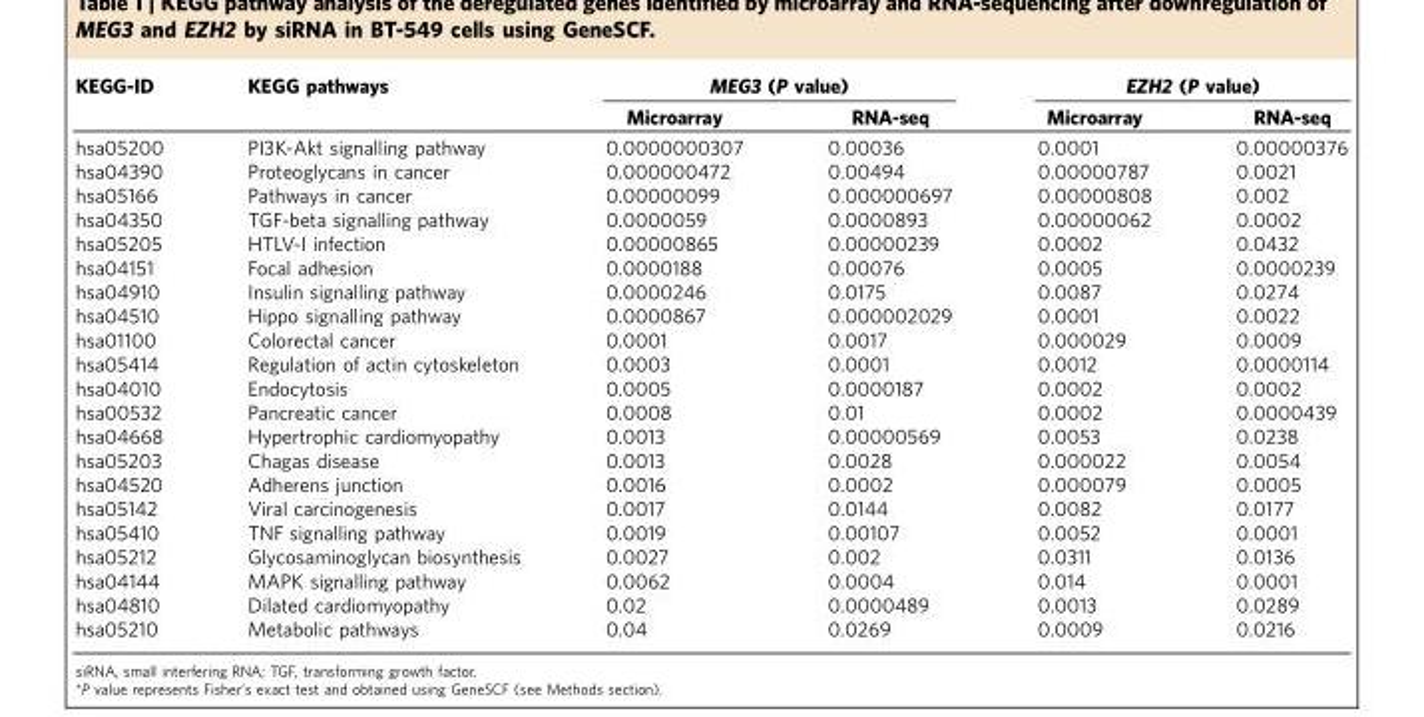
<table><thead><tr><td rowspan="2">KEGG-ID</td><td rowspan="2">KEGG pathways</td><td colspan="2">MEG3 (P value)</td><td colspan="2">EZH2 (P value)</td></tr><tr><td>Microarray</td><td>RNA-seq</td><td>Microarray</td><td>RNA-seq</td></tr></thead><tbody><tr><td>hsa05200</td><td>PI3K-Akt signalling pathway</td><td>0.0000000307</td><td>0.00036</td><td>0.0001</td><td>0.00000376</td></tr><tr><td>hsa04390</td><td>Proteoglycans in cancer</td><td>0.000000472</td><td>0.00494</td><td>0.00000787</td><td>0.0021</td></tr><tr><td>hsa05166</td><td>Pathways in cancer</td><td>0.00000099</td><td>0.000000697</td><td>0.00000808</td><td>0.002</td></tr><tr><td>hsa04350</td><td>TGF-beta signalling pathway</td><td>0.0000059</td><td>0.0000893</td><td>0.00000062</td><td>0.0002</td></tr><tr><td>hsa05205</td><td>HTLV-I infection</td><td>0.00000865</td><td>0.00000239</td><td>0.0002</td><td>0.0432</td></tr><tr><td>hsa04151</td><td>Focal adhesion</td><td>0.0000188</td><td>0.00076</td><td>0.0005</td><td>0.0000239</td></tr><tr><td>hsa04910</td><td>Insulin signalling pathway</td><td>0.0000246</td><td>0.0175</td><td>0.0087</td><td>0.0274</td></tr><tr><td>hsa04510</td><td>Hippo signalling pathway</td><td>0.0000867</td><td>0.000002029</td><td>0.0001</td><td>0.0022</td></tr><tr><td>hsa01100</td><td>Colorectal cancer</td><td>0.0001</td><td>0.0017</td><td>0.000029</td><td>0.0009</td></tr><tr><td>hsa05414</td><td>Regulation of actin cytoskeleton</td><td>0.0003</td><td>0.0001</td><td>0.0012</td><td>0.0000114</td></tr><tr><td>hsa04010</td><td>Endocytosis</td><td>0.0005</td><td>0.0000187</td><td>0.0002</td><td>0.0002</td></tr><tr><td>hsa00532</td><td>Pancreatic cancer</td><td>0.0008</td><td>0.01</td><td>0.0002</td><td>0.0000439</td></tr><tr><td>hsa04668</td><td>Hypertrophic cardiomyopathy</td><td>0.0013</td><td>0.00000569</td><td>0.0053</td><td>0.0238</td></tr><tr><td>hsa05203</td><td>Chagas disease</td><td>0.0013</td><td>0.0028</td><td>0.000022</td><td>0.0054</td></tr><tr><td>hsa04520</td><td>Adherens junction</td><td>0.0016</td><td>0.0002</td><td>0.000079</td><td>0.0005</td></tr><tr><td>hsa05142</td><td>Viral carcinogenesis</td><td>0.0017</td><td>0.0144</td><td>0.0082</td><td>0.0177</td></tr><tr><td>hsa05410</td><td>TNF signalling pathway</td><td>0.0019</td><td>0.00107</td><td>0.0052</td><td>0.0001</td></tr><tr><td>hsa05212</td><td>Glycosaminoglycan biosynthesis</td><td>0.0027</td><td>0.002</td><td>0.0311</td><td>0.0136</td></tr><tr><td>hsa04144</td><td>MAPK signalling pathway</td><td>0.0062</td><td>0.0004</td><td>0.014</td><td>0.0001</td></tr><tr><td>hsa04810</td><td>Dilated cardiomyopathy</td><td>0.02</td><td>0.0000489</td><td>0.0013</td><td>0.0289</td></tr><tr><td>hsa05210</td><td>Metabolic pathways</td><td>0.04</td><td>0.0269</td><td>0.0009</td><td>0.0216</td></tr></tbody></table>